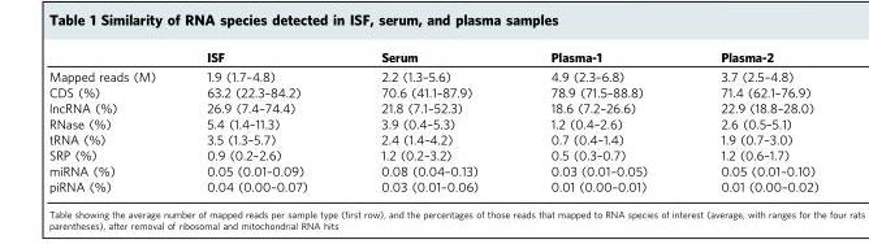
<table><thead><tr><td></td><td>ISF</td><td>Serum</td><td>Plasma-1</td><td>Plasma-2</td></tr></thead><tbody><tr><td>Mapped reads (M)</td><td>1.9 (1.7–4.8)</td><td>2.2 (1.3–5.6)</td><td>4.9 (2.3–6.8)</td><td>3.7 (2.5–4.8)</td></tr><tr><td>CDS (%)</td><td>63.2 (22.3–84.2)</td><td>70.6 (41.1–87.9)</td><td>78.9 (71.5–88.8)</td><td>71.4 (62.1–76.9)</td></tr><tr><td>lncRNA (%)</td><td>26.9 (7.4–74.4)</td><td>21.8 (7.1–52.3)</td><td>18.6 (7.2–26.6)</td><td>22.9 (18.8–28.0)</td></tr><tr><td>RNase (%)</td><td>5.4 (1.4–11.3)</td><td>3.9 (0.4–5.3)</td><td>1.2 (0.4–2.6)</td><td>2.6 (0.5–5.1)</td></tr><tr><td>tRNA (%)</td><td>3.5 (1.3–5.7)</td><td>2.4 (1.4–4.2)</td><td>0.7 (0.4–1.4)</td><td>1.9 (0.7–3.0)</td></tr><tr><td>SRP (%)</td><td>0.9 (0.2–2.6)</td><td>1.2 (0.2–3.2)</td><td>0.5 (0.3–0.7)</td><td>1.2 (0.6–1.7)</td></tr><tr><td>miRNA (%)</td><td>0.05 (0.01–0.09)</td><td>0.08 (0.04–0.13)</td><td>0.03 (0.01–0.05)</td><td>0.05 (0.01–0.10)</td></tr><tr><td>piRNA (%)</td><td>0.04 (0.00–0.07)</td><td>0.03 (0.01–0.06)</td><td>0.01 (0.00–0.01)</td><td>0.01 (0.00–0.02)</td></tr></tbody></table>